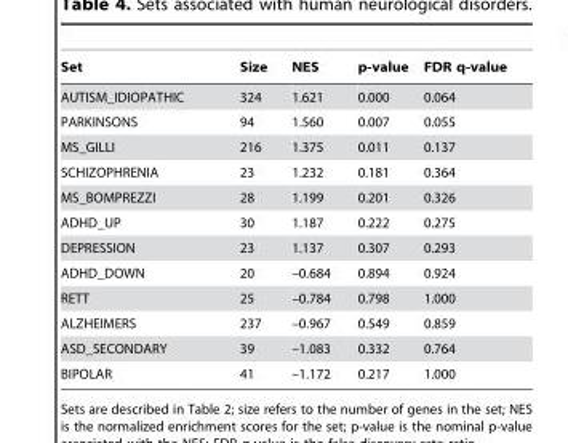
<table><thead><tr><td>Set</td><td>Size</td><td>NES</td><td>p-value</td><td>FDR q-value</td></tr></thead><tbody><tr><td>AUTISM_IDIOPATHIC</td><td>324</td><td>1.621</td><td>0.000</td><td>0.064</td></tr><tr><td>PARKINSONS</td><td>94</td><td>1.560</td><td>0.007</td><td>0.055</td></tr><tr><td>MS_GILLI</td><td>216</td><td>1.375</td><td>0.011</td><td>0.137</td></tr><tr><td>SCHIZOPHRENIA</td><td>23</td><td>1.232</td><td>0.181</td><td>0.364</td></tr><tr><td>MS_BOMPREZZI</td><td>28</td><td>1.199</td><td>0.201</td><td>0.326</td></tr><tr><td>ADHD_UP</td><td>30</td><td>1.187</td><td>0.222</td><td>0.275</td></tr><tr><td>DEPRESSION</td><td>23</td><td>1.137</td><td>0.307</td><td>0.293</td></tr><tr><td>ADHD_DOWN</td><td>20</td><td>–0.684</td><td>0.894</td><td>0.924</td></tr><tr><td>RETT</td><td>25</td><td>–0.784</td><td>0.798</td><td>1.000</td></tr><tr><td>ALZHEIMERS</td><td>237</td><td>–0.967</td><td>0.549</td><td>0.859</td></tr><tr><td>ASD_SECONDARY</td><td>39</td><td>–1.083</td><td>0.332</td><td>0.764</td></tr><tr><td>BIPOLAR</td><td>41</td><td>–1.172</td><td>0.217</td><td>1.000</td></tr></tbody></table>